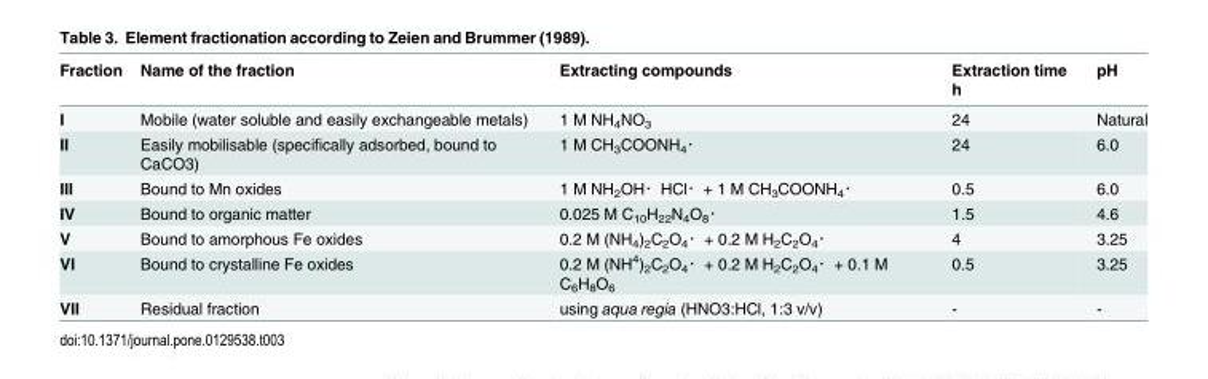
<table><thead><tr><td>Fraction</td><td>Name of the fraction</td><td>Extracting compounds</td><td>Extraction time h</td><td>pH</td></tr></thead><tbody><tr><td>I</td><td>Mobile (water soluble and easily exchangeable metals)</td><td>1 M NH<sub>4</sub>NO<sub>3</sub></td><td>24</td><td>Natural</td></tr><tr><td>II</td><td>Easily mobilisable (specifically adsorbed, bound to CaCO3)</td><td>1 M CH<sub>3</sub>COONH<sub>4</sub>・</td><td>24</td><td>6.0</td></tr><tr><td>III</td><td>Bound to Mn oxides</td><td>1 M NH<sub>2</sub>OH・HCl・+ 1 M CH<sub>3</sub>COONH<sub>4</sub>・</td><td>0.5</td><td>6.0</td></tr><tr><td>IV</td><td>Bound to organic matter</td><td>0.025 M C<sub>10</sub>H<sub>22</sub>N<sub>4</sub>O<sub>8</sub>・</td><td>1.5</td><td>4.6</td></tr><tr><td>V</td><td>Bound to amorphous Fe oxides</td><td>0.2 M (NH<sub>4</sub>)<sub>2</sub>C<sub>2</sub>O<sub>4</sub>・+ 0.2 M H<sub>2</sub>C<sub>2</sub>O<sub>4</sub>・</td><td>4</td><td>3.25</td></tr><tr><td>VI</td><td>Bound to crystalline Fe oxides</td><td>0.2 M (NH<sup>4</sup>)<sub>2</sub>C<sub>2</sub>O<sub>4</sub>・+ 0.2 M H<sub>2</sub>C<sub>2</sub>O<sub>4</sub>・+ 0.1 M C<sub>6</sub>H<sub>8</sub>O<sub>6</sub></td><td>0.5</td><td>3.25</td></tr><tr><td>VII</td><td>Residual fraction</td><td>using aqua regia (HNO3:HCl, 1:3 v/v)</td><td>-</td><td>-</td></tr></tbody></table>